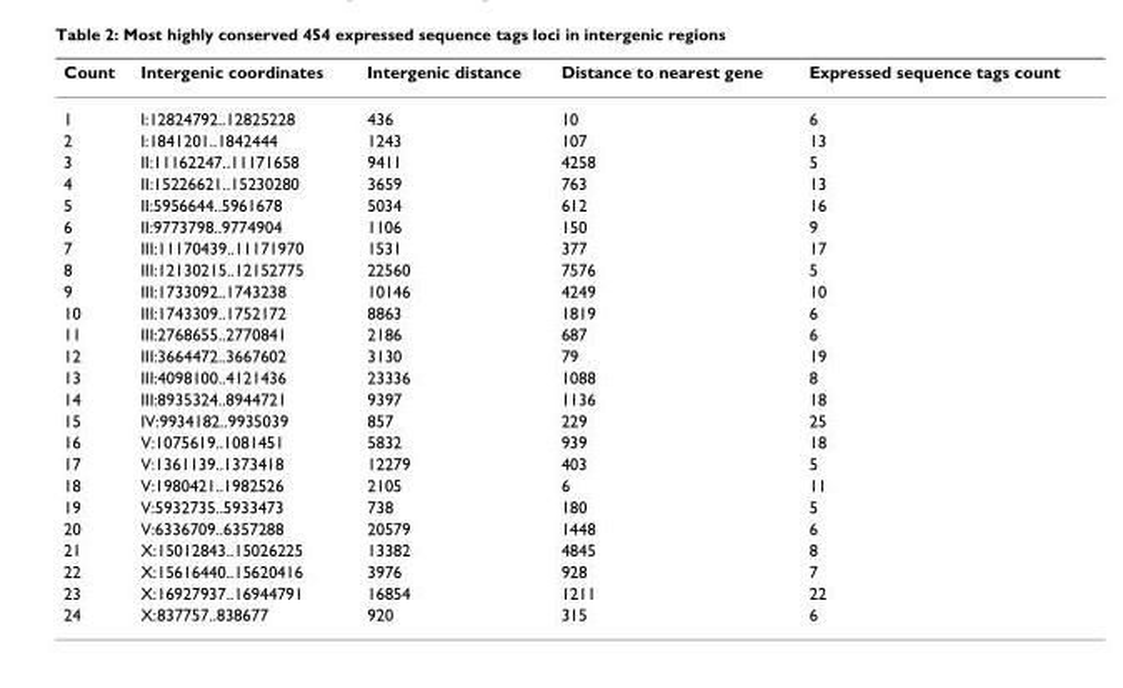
<table><thead><tr><td>Count</td><td>Intergenic coordinates</td><td>Intergenic distance</td><td>Distance to nearest gene</td><td>Expressed sequence tags count</td></tr></thead><tbody><tr><td>1</td><td>I:12824792..12825228</td><td>436</td><td>10</td><td>6</td></tr><tr><td>2</td><td>I:1841201..1842444</td><td>1243</td><td>107</td><td>13</td></tr><tr><td>3</td><td>II:11162247..11171658</td><td>9411</td><td>4258</td><td>5</td></tr><tr><td>4</td><td>II:15226621..15230280</td><td>3659</td><td>763</td><td>13</td></tr><tr><td>5</td><td>II:5956644..5961678</td><td>5034</td><td>612</td><td>16</td></tr><tr><td>6</td><td>II:9773798..9774904</td><td>1106</td><td>150</td><td>9</td></tr><tr><td>7</td><td>III:11170439..11171970</td><td>1531</td><td>377</td><td>17</td></tr><tr><td>8</td><td>III:12130215..12152775</td><td>22560</td><td>7576</td><td>5</td></tr><tr><td>9</td><td>III:1733092..1743238</td><td>10146</td><td>4249</td><td>10</td></tr><tr><td>10</td><td>III:1743309..1752172</td><td>8863</td><td>1819</td><td>6</td></tr><tr><td>11</td><td>III:2768655..2770841</td><td>2186</td><td>687</td><td>6</td></tr><tr><td>12</td><td>III:3664472..3667602</td><td>3130</td><td>79</td><td>19</td></tr><tr><td>13</td><td>III:4098100..4121436</td><td>23336</td><td>1088</td><td>8</td></tr><tr><td>14</td><td>III:8935324..8944721</td><td>9397</td><td>1136</td><td>18</td></tr><tr><td>15</td><td>IV:9934182..9935039</td><td>857</td><td>229</td><td>25</td></tr><tr><td>16</td><td>V:1075619..1081451</td><td>5832</td><td>939</td><td>18</td></tr><tr><td>17</td><td>V:1361139..1373418</td><td>12279</td><td>403</td><td>5</td></tr><tr><td>18</td><td>V:1980421..1982526</td><td>2105</td><td>6</td><td>11</td></tr><tr><td>19</td><td>V:5932735..5933473</td><td>738</td><td>180</td><td>5</td></tr><tr><td>20</td><td>V:6336709..6357288</td><td>20579</td><td>1448</td><td>6</td></tr><tr><td>21</td><td>X:15012843..15026225</td><td>13382</td><td>4845</td><td>8</td></tr><tr><td>22</td><td>X:15616440..15620416</td><td>3976</td><td>928</td><td>7</td></tr><tr><td>23</td><td>X:16927937..16944791</td><td>16854</td><td>1211</td><td>22</td></tr><tr><td>24</td><td>X:837757..838677</td><td>920</td><td>315</td><td>6</td></tr></tbody></table>